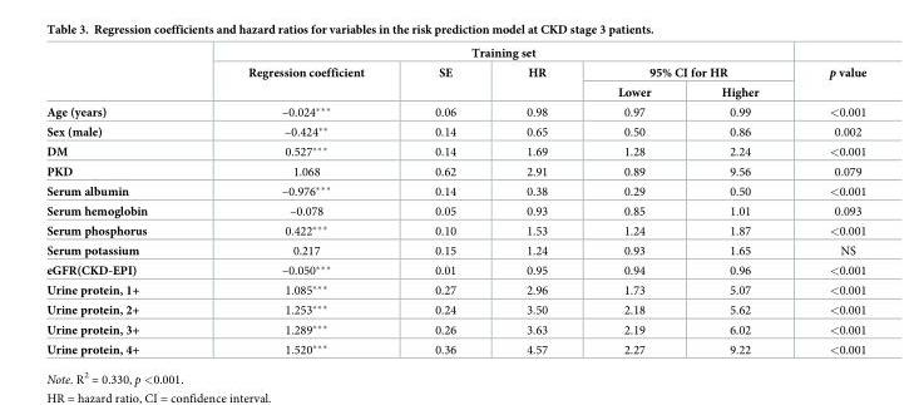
<table><thead><tr><td rowspan="3"></td><td colspan="5">Training set</td><td rowspan="3">p value</td></tr><tr><td rowspan="2">Regression coefficient</td><td rowspan="2">SE</td><td rowspan="2">HR</td><td colspan="2">95% CI for HR</td></tr><tr><td>Lower</td><td>Higher</td></tr></thead><tbody><tr><td>Age (years)</td><td>–0.024***</td><td>0.06</td><td>0.98</td><td>0.97</td><td>0.99</td><td>&lt;0.001</td></tr><tr><td>Sex (male)</td><td>–0.424**</td><td>0.14</td><td>0.65</td><td>0.50</td><td>0.86</td><td>0.002</td></tr><tr><td>DM</td><td>0.527***</td><td>0.14</td><td>1.69</td><td>1.28</td><td>2.24</td><td>&lt;0.001</td></tr><tr><td>PKD</td><td>1.068</td><td>0.62</td><td>2.91</td><td>0.89</td><td>9.56</td><td>0.079</td></tr><tr><td>Serum albumin</td><td>–0.976***</td><td>0.14</td><td>0.38</td><td>0.29</td><td>0.50</td><td>&lt;0.001</td></tr><tr><td>Serum hemoglobin</td><td>–0.078</td><td>0.05</td><td>0.93</td><td>0.85</td><td>1.01</td><td>0.093</td></tr><tr><td>Serum phosphorus</td><td>0.422***</td><td>0.10</td><td>1.53</td><td>1.24</td><td>1.87</td><td>&lt;0.001</td></tr><tr><td>Serum potassium</td><td>0.217</td><td>0.15</td><td>1.24</td><td>0.93</td><td>1.65</td><td>NS</td></tr><tr><td>eGFR(CKD-EPI)</td><td>–0.050***</td><td>0.01</td><td>0.95</td><td>0.94</td><td>0.96</td><td>&lt;0.001</td></tr><tr><td>Urine protein, 1+</td><td>1.085***</td><td>0.27</td><td>2.96</td><td>1.73</td><td>5.07</td><td>&lt;0.001</td></tr><tr><td>Urine protein, 2+</td><td>1.253***</td><td>0.24</td><td>3.50</td><td>2.18</td><td>5.62</td><td>&lt;0.001</td></tr><tr><td>Urine protein, 3+</td><td>1.289***</td><td>0.26</td><td>3.63</td><td>2.19</td><td>6.02</td><td>&lt;0.001</td></tr><tr><td>Urine protein, 4+</td><td>1.520***</td><td>0.36</td><td>4.57</td><td>2.27</td><td>9.22</td><td>&lt;0.001</td></tr></tbody></table>